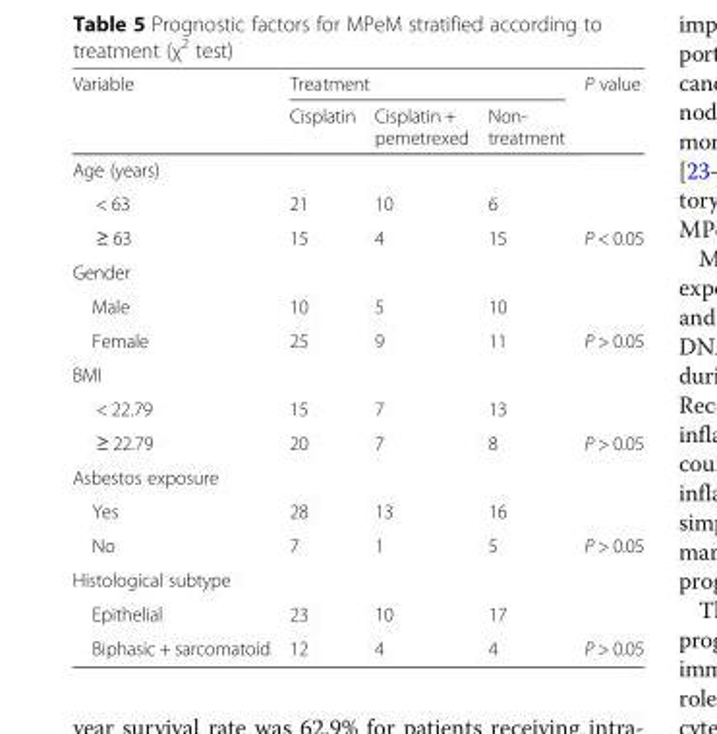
<table><thead><tr><td rowspan="2">Variable</td><td colspan="3">Treatment</td><td rowspan="2">P value</td></tr><tr><td>Cisplatin</td><td>Cisplatin + pemetrexed</td><td>Non- treatment</td></tr></thead><tbody><tr><td colspan="5">Age (years)</td></tr><tr><td>&lt; 63</td><td>21</td><td>10</td><td>6</td><td></td></tr><tr><td>≥ 63</td><td>15</td><td>4</td><td>15</td><td>P &lt; 0.05</td></tr><tr><td colspan="5">Gender</td></tr><tr><td>Male</td><td>10</td><td>5</td><td>10</td><td></td></tr><tr><td>Female</td><td>25</td><td>9</td><td>11</td><td>P &gt; 0.05</td></tr><tr><td colspan="5">BMI</td></tr><tr><td>&lt; 22.79</td><td>15</td><td>7</td><td>13</td><td></td></tr><tr><td>≥ 22.79</td><td>20</td><td>7</td><td>8</td><td>P &gt; 0.05</td></tr><tr><td colspan="5">Asbestos exposure</td></tr><tr><td>Yes</td><td>28</td><td>13</td><td>16</td><td></td></tr><tr><td>No</td><td>7</td><td>1</td><td>5</td><td>P &gt; 0.05</td></tr><tr><td colspan="5">Histological subtype</td></tr><tr><td>Epithelial</td><td>23</td><td>10</td><td>17</td><td></td></tr><tr><td>Biphasic + sarcomatoid</td><td>12</td><td>4</td><td>4</td><td>P &gt; 0.05</td></tr></tbody></table>